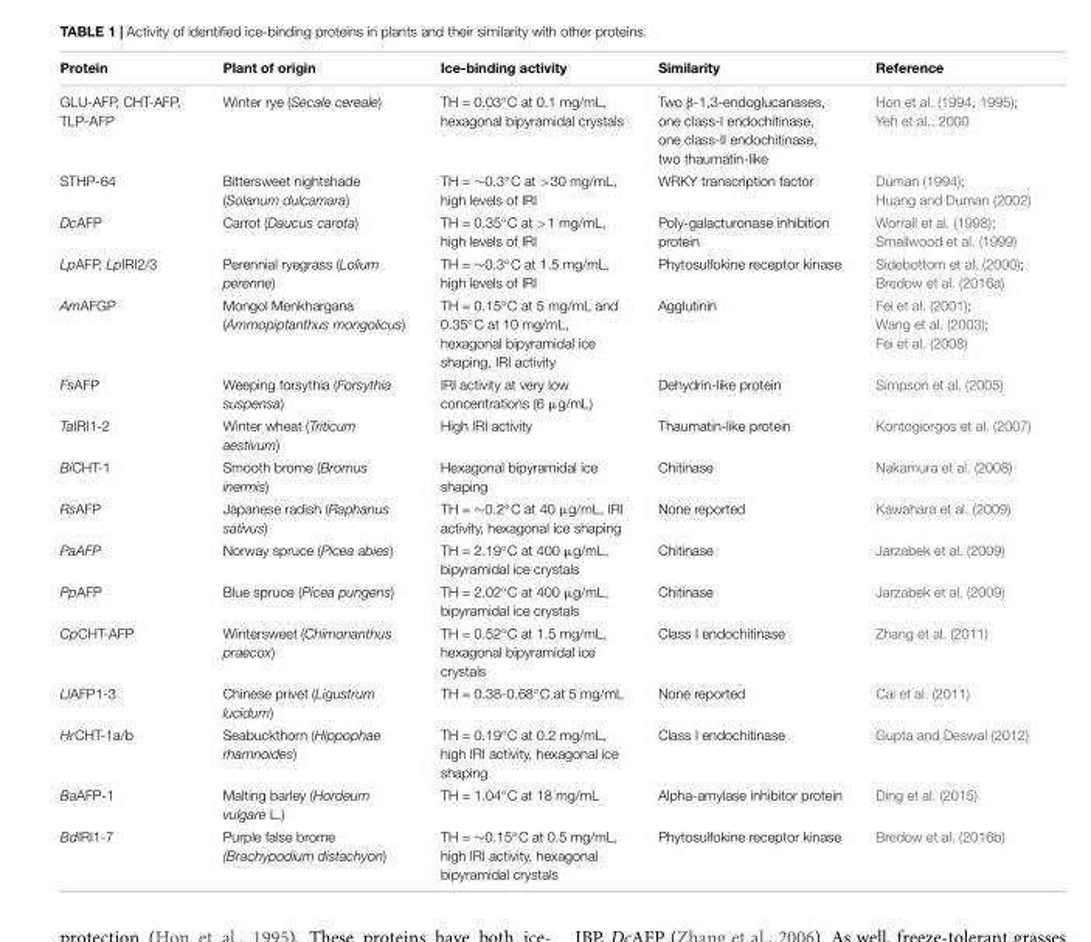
<table><thead><tr><td>Protein</td><td>Plant of origin</td><td>Ice-binding activity</td><td>Similarity</td><td>Reference</td></tr></thead><tbody><tr><td>GLU-AFP, CHT-AFP, TLP-AFP</td><td>Winter rye (Secale cereale)</td><td>TH = 0.03◦C at 0.1 mg/mL, hexagonal bipyramidal crystals</td><td>Two β-1,3-endoglucanases, one class-I endochitinase, one class-II endochitinase, two thaumatin-like</td><td>Hon et al. (1994, 1995); Yeh et al., 2000</td></tr><tr><td>STHP-64</td><td>Bittersweet nightshade (Solanum dulcamara)</td><td>TH = ∼0.3◦C at &gt;30 mg/mL, high levels of IRI</td><td>WRKY transcription factor</td><td>Duman (1994); Huang and Duman (2002)</td></tr><tr><td>DcAFP</td><td>Carrot (Daucus carota)</td><td>TH = 0.35◦C at &gt;1 mg/mL, high levels of IRI</td><td>Poly-galacturonase inhibition protein</td><td>Worrall et al. (1998); Smallwood et al. (1999)</td></tr><tr><td>LpAFP, LpIRI2/3</td><td>Perennial ryegrass (Lolium perenne)</td><td>TH = ∼0.3◦C at 1.5 mg/mL, high levels of IRI</td><td>Phytosulfokine receptor kinase</td><td>Sidebottom et al. (2000); Bredow et al. (2016a)</td></tr><tr><td>AmAFGP</td><td>Mongol Menkhargana (Ammopiptanthus mongolicus)</td><td>TH = 0.15◦C at 5 mg/mL and 0.35◦C at 10 mg/mL, hexagonal bipyramidal ice shaping, IRI activity</td><td>Agglutinin</td><td>Fei et al. (2001); Wang et al. (2003); Fei et al. (2008)</td></tr><tr><td>FsAFP</td><td>Weeping forsythia (Forsythia suspensa)</td><td>IRI activity at very low concentrations (6 µg/mL)</td><td>Dehydrin-like protein</td><td>Simpson et al. (2005)</td></tr><tr><td>TaIRI1-2</td><td>Winter wheat (Triticum aestivum)</td><td>High IRI activity</td><td>Thaumatin-like protein</td><td>Kontogiorgos et al. (2007)</td></tr><tr><td>BiCHT-1</td><td>Smooth brome (Bromus inermis)</td><td>Hexagonal bipyramidal ice shaping</td><td>Chitinase</td><td>Nakamura et al. (2008)</td></tr><tr><td>RsAFP</td><td>Japanese radish (Raphanus sativus)</td><td>TH = ∼0.2◦C at 40 µg/mL, IRI activity, hexagonal ice shaping</td><td>None reported</td><td>Kawahara et al. (2009)</td></tr><tr><td>PaAFP</td><td>Norway spruce (Picea abies)</td><td>TH = 2.19◦C at 400 µg/mL, bipyramidal ice crystals</td><td>Chitinase</td><td>Jarzabek et al. (2009)</td></tr><tr><td>PpAFP</td><td>Blue spruce (Picea pungens)</td><td>TH = 2.02◦C at 400 µg/mL, bipyramidal ice crystals</td><td>Chitinase</td><td>Jarzabek et al. (2009)</td></tr><tr><td>CpCHT-AFP</td><td>Wintersweet (Chimonanthus praecox)</td><td>TH = 0.52◦C at 1.5 mg/mL, hexagonal bipyramidal ice crystals</td><td>Class I endochitinase</td><td>Zhang et al. (2011)</td></tr><tr><td>LlAFP1-3</td><td>Chinese privet (Ligustrum lucidum)</td><td>TH = 0.38-0.68◦C at 5 mg/mL</td><td>None reported</td><td>Cai et al. (2011)</td></tr><tr><td>HrCHT-1a/b</td><td>Seabuckthorn (Hippophae rhamnoides)</td><td>TH = 0.19◦C at 0.2 mg/mL, high IRI activity, hexagonal ice shaping</td><td>Class I endochitinase</td><td>Gupta and Deswal (2012)</td></tr><tr><td>BaAFP-1</td><td>Malting barley (Hordeum vulgare L.)</td><td>TH = 1.04◦C at 18 mg/mL</td><td>Alpha-amylase inhibitor protein</td><td>Ding et al. (2015)</td></tr><tr><td>BdIRI1-7</td><td>Purple false brome (Brachypodium distachyon)</td><td>TH = ∼0.15◦C at 0.5 mg/mL, high IRI activity, hexagonal bipyramidal crystals</td><td>Phytosulfokine receptor kinase</td><td>Bredow et al. (2016b)</td></tr></tbody></table>